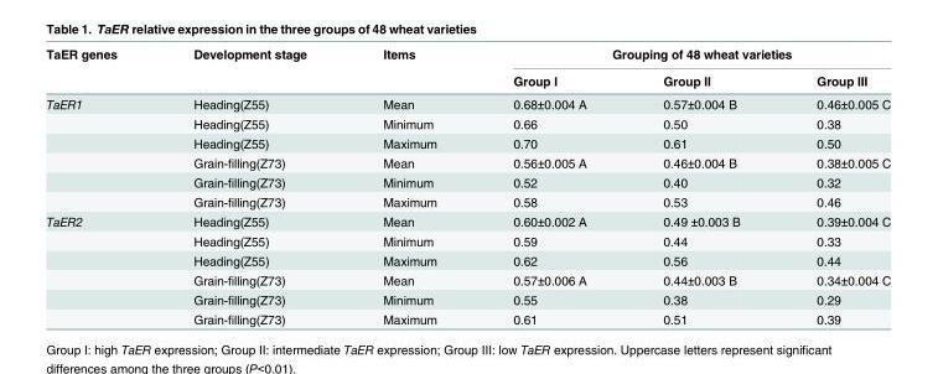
<table><thead><tr><td rowspan="2">TaER genes</td><td rowspan="2">Development stage</td><td rowspan="2">Items</td><td colspan="3">Grouping of 48 wheat varieties</td></tr><tr><td>Group I</td><td>Group II</td><td>Group III</td></tr></thead><tbody><tr><td rowspan="6">TaER1</td><td>Heading(Z55)</td><td>Mean</td><td>0.68±0.004 A</td><td>0.57±0.004 B</td><td>0.46±0.005 C</td></tr><tr><td>Heading(Z55)</td><td>Minimum</td><td>0.66</td><td>0.50</td><td>0.38</td></tr><tr><td>Heading(Z55)</td><td>Maximum</td><td>0.70</td><td>0.61</td><td>0.50</td></tr><tr><td>Grain-filling(Z73)</td><td>Mean</td><td>0.56±0.005 A</td><td>0.46±0.004 B</td><td>0.38±0.005 C</td></tr><tr><td>Grain-filling(Z73)</td><td>Minimum</td><td>0.52</td><td>0.40</td><td>0.32</td></tr><tr><td>Grain-filling(Z73)</td><td>Maximum</td><td>0.58</td><td>0.53</td><td>0.46</td></tr><tr><td rowspan="6">TaER2</td><td>Heading(Z55)</td><td>Mean</td><td>0.60±0.002 A</td><td>0.49 ±0.003 B</td><td>0.39±0.004 C</td></tr><tr><td>Heading(Z55)</td><td>Minimum</td><td>0.59</td><td>0.44</td><td>0.33</td></tr><tr><td>Heading(Z55)</td><td>Maximum</td><td>0.62</td><td>0.56</td><td>0.44</td></tr><tr><td>Grain-filling(Z73)</td><td>Mean</td><td>0.57±0.006 A</td><td>0.44±0.003 B</td><td>0.34±0.004 C</td></tr><tr><td>Grain-filling(Z73)</td><td>Minimum</td><td>0.55</td><td>0.38</td><td>0.29</td></tr><tr><td>Grain-filling(Z73)</td><td>Maximum</td><td>0.61</td><td>0.51</td><td>0.39</td></tr></tbody></table>